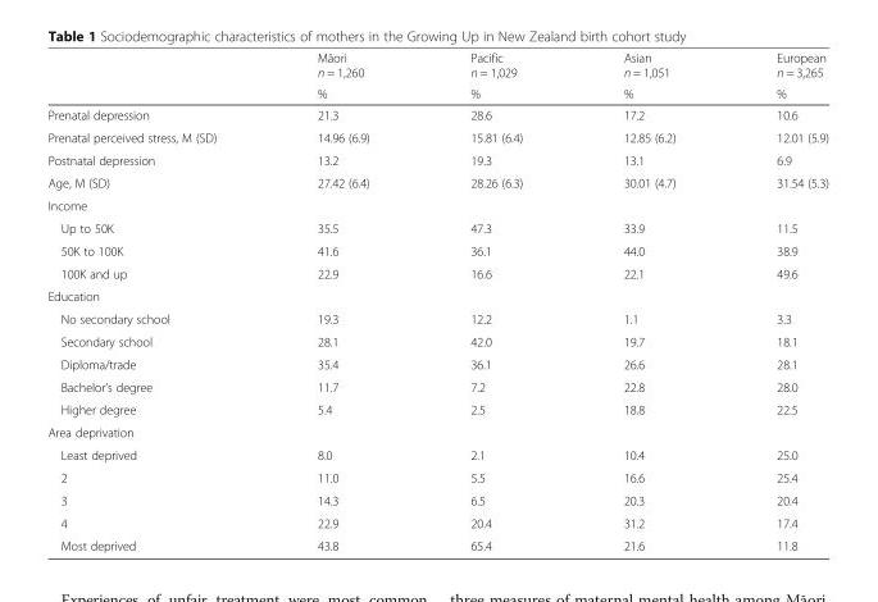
<table><thead><tr><td rowspan="2"></td><td rowspan="2">Māori n = 1,260 %</td><td rowspan="2">Pacific n = 1,029 %</td><td rowspan="2">Asian n = 1,051 %</td><td rowspan="2">European n = 3,265 %</td></tr><tr></tr></thead><tbody><tr><td>Prenatal depression</td><td>21.3</td><td>28.6</td><td>17.2</td><td>10.6</td></tr><tr><td>Prenatal perceived stress, M (SD)</td><td>14.96 (6.9)</td><td>15.81 (6.4)</td><td>12.85 (6.2)</td><td>12.01 (5.9)</td></tr><tr><td>Postnatal depression</td><td>13.2</td><td>19.3</td><td>13.1</td><td>6.9</td></tr><tr><td>Age, M (SD)</td><td>27.42 (6.4)</td><td>28.26 (6.3)</td><td>30.01 (4.7)</td><td>31.54 (5.3)</td></tr><tr><td colspan="5">Income</td></tr><tr><td>Up to 50K</td><td>35.5</td><td>47.3</td><td>33.9</td><td>11.5</td></tr><tr><td>50K to 100K</td><td>41.6</td><td>36.1</td><td>44.0</td><td>38.9</td></tr><tr><td>100K and up</td><td>22.9</td><td>16.6</td><td>22.1</td><td>49.6</td></tr><tr><td colspan="5">Education</td></tr><tr><td>No secondary school</td><td>19.3</td><td>12.2</td><td>1.1</td><td>3.3</td></tr><tr><td>Secondary school</td><td>28.1</td><td>42.0</td><td>19.7</td><td>18.1</td></tr><tr><td>Diploma/trade</td><td>35.4</td><td>36.1</td><td>26.6</td><td>28.1</td></tr><tr><td>Bachelor’s degree</td><td>11.7</td><td>7.2</td><td>22.8</td><td>28.0</td></tr><tr><td>Higher degree</td><td>5.4</td><td>2.5</td><td>18.8</td><td>22.5</td></tr><tr><td colspan="5">Area deprivation</td></tr><tr><td>Least deprived</td><td>8.0</td><td>2.1</td><td>10.4</td><td>25.0</td></tr><tr><td>2</td><td>11.0</td><td>5.5</td><td>16.6</td><td>25.4</td></tr><tr><td>3</td><td>14.3</td><td>6.5</td><td>20.3</td><td>20.4</td></tr><tr><td>4</td><td>22.9</td><td>20.4</td><td>31.2</td><td>17.4</td></tr><tr><td>Most deprived</td><td>43.8</td><td>65.4</td><td>21.6</td><td>11.8</td></tr></tbody></table>